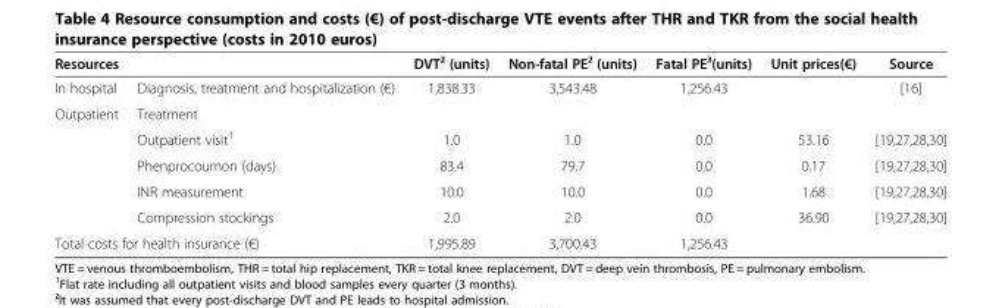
<table><thead><tr><td colspan="2">Resources</td><td rowspan="2">DVT² (units) 1,838.33</td><td rowspan="2">Non-fatal PE² (units) 3,543.48</td><td rowspan="2">Fatal PE³(units) 1,256.43</td><td rowspan="2">Unit prices(€)</td><td rowspan="2">Source [16]</td></tr><tr><td>In hospital</td><td>Diagnosis, treatment and hospitalization (€)</td></tr></thead><tbody><tr><td rowspan="5">Outpatient</td><td>Treatment</td><td></td><td></td><td></td><td></td><td></td></tr><tr><td>Outpatient visit<sup>1</sup></td><td>1.0</td><td>1.0</td><td>0.0</td><td>53.16</td><td>[19,27,28,30]</td></tr><tr><td>Phenprocoumon (days)</td><td>83.4</td><td>79.7</td><td>0.0</td><td>0.17</td><td>[19,27,28,30]</td></tr><tr><td>INR measurement</td><td>10.0</td><td>10.0</td><td>0.0</td><td>1.68</td><td>[19,27,28,30]</td></tr><tr><td>Compression stockings</td><td>2.0</td><td>2.0</td><td>0.0</td><td>36.90</td><td>[19,27,28,30]</td></tr><tr><td colspan="2">Total costs for health insurance (€)</td><td>1,995.89</td><td>3,700.43</td><td>1,256.43</td><td></td><td></td></tr></tbody></table>